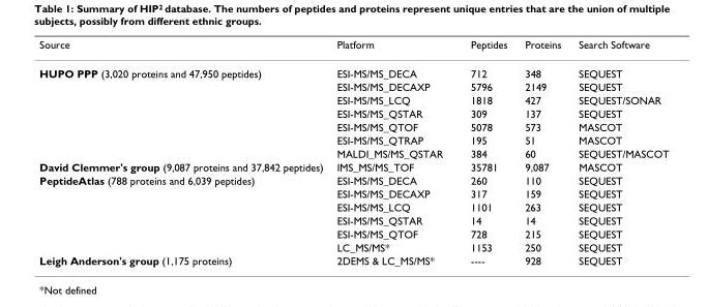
<table><thead><tr><td>Source</td><td>Platform</td><td>Peptides</td><td>Proteins</td><td>Search Software</td></tr></thead><tbody><tr><td rowspan="7">HUPO PPP (3,020 proteins and 47,950 peptides)</td><td>ESI-MS/MS_DECA</td><td>712</td><td>348</td><td>SEQUEST</td></tr><tr><td>ESI-MS/MS_DECAXP</td><td>5796</td><td>2149</td><td>SEQUEST</td></tr><tr><td>ESI-MS/MS_LCQ</td><td>1818</td><td>427</td><td>SEQUEST/SONAR</td></tr><tr><td>ESI-MS/MS_QSTAR</td><td>309</td><td>137</td><td>SEQUEST</td></tr><tr><td>ESI-MS/MS_QTOF</td><td>5078</td><td>573</td><td>MASCOT</td></tr><tr><td>ESI-MS/MS_QTRAP</td><td>195</td><td>51</td><td>MASCOT</td></tr><tr><td>MALDI_MS/MS_QSTAR</td><td>384</td><td>60</td><td>SEQUEST/MASCOT</td></tr><tr><td>David Clemmer&#x27;s group (9,087 proteins and 37,842 peptides)</td><td>IMS_MS/MS_TOF</td><td>35781</td><td>9,087</td><td>MASCOT</td></tr><tr><td rowspan="6">PeptideAtlas (788 proteins and 6,039 peptides)</td><td>ESI-MS/MS_DECA</td><td>260</td><td>110</td><td>SEQUEST</td></tr><tr><td>ESI-MS/MS_DECAXP</td><td>317</td><td>159</td><td>SEQUEST</td></tr><tr><td>ESI-MS/MS_LCQ</td><td>1101</td><td>263</td><td>SEQUEST</td></tr><tr><td>ESI-MS/MS_QSTAR</td><td>14</td><td>14</td><td>SEQUEST</td></tr><tr><td>ESI-MS/MS_QTOF</td><td>728</td><td>215</td><td>SEQUEST</td></tr><tr><td>LC_MS/MS*</td><td>1153</td><td>250</td><td>SEQUEST</td></tr><tr><td>Leigh Anderson&#x27;s group (1,175 proteins)</td><td>2DEMS &amp; LC_MS/MS*</td><td>----</td><td>928</td><td>SEQUEST</td></tr></tbody></table>